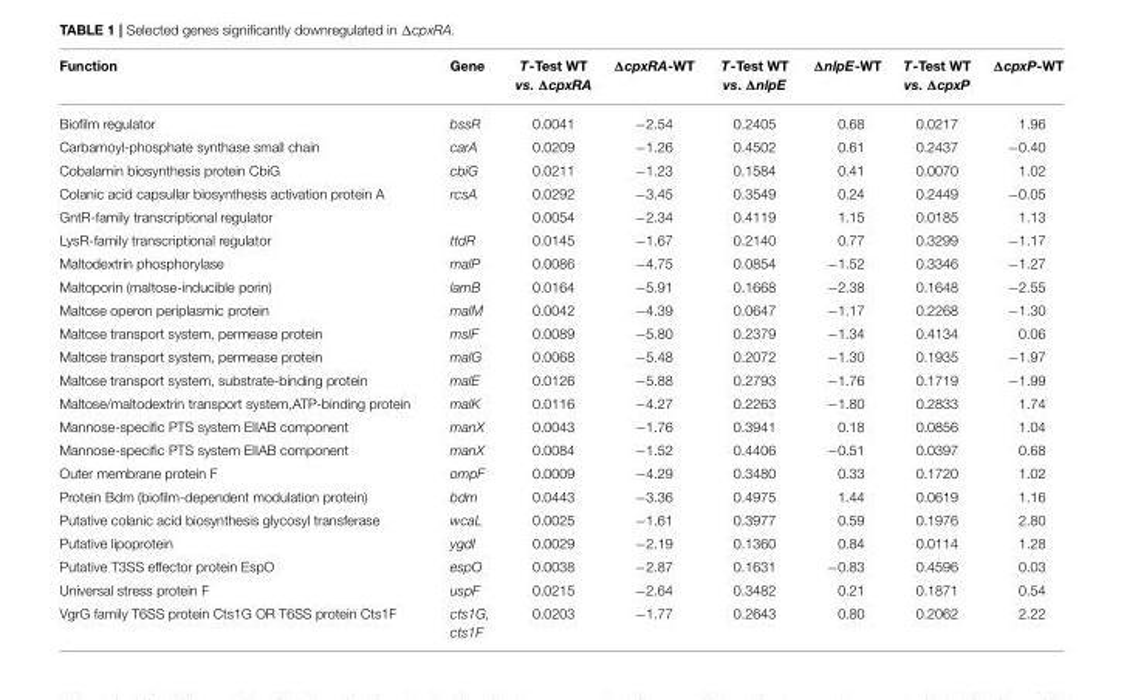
<table><thead><tr><td>Function</td><td>Gene</td><td>T-Test WT vs. ΔcpxRA</td><td>ΔcpxRA-WT</td><td>T-Test WT vs. ΔnlpE</td><td>ΔnlpE-WT</td><td>T-Test WT vs. ΔcpxP</td><td>ΔcpxP-WT</td></tr></thead><tbody><tr><td>Biofilm regulator</td><td>bssR</td><td>0.0041</td><td>−2.54</td><td>0.2405</td><td>0.68</td><td>0.0217</td><td>1.96</td></tr><tr><td>Carbamoyl-phosphate synthase small chain</td><td>carA</td><td>0.0209</td><td>−1.26</td><td>0.4502</td><td>0.61</td><td>0.2437</td><td>−0.40</td></tr><tr><td>Cobalamin biosynthesis protein CbiG</td><td>cbiG</td><td>0.0211</td><td>−1.23</td><td>0.1584</td><td>0.41</td><td>0.0070</td><td>1.02</td></tr><tr><td>Colanic acid capsullar biosynthesis activation protein A</td><td>rcsA</td><td>0.0292</td><td>−3.45</td><td>0.3549</td><td>0.24</td><td>0.2449</td><td>−0.05</td></tr><tr><td>GntR-family transcriptional regulator</td><td></td><td>0.0054</td><td>−2.34</td><td>0.4119</td><td>1.15</td><td>0.0185</td><td>1.13</td></tr><tr><td>LysR-family transcriptional regulator</td><td>ttdR</td><td>0.0145</td><td>−1.67</td><td>0.2140</td><td>0.77</td><td>0.3299</td><td>−1.17</td></tr><tr><td>Maltodextrin phosphorylase</td><td>malP</td><td>0.0086</td><td>−4.75</td><td>0.0854</td><td>−1.52</td><td>0.3346</td><td>−1.27</td></tr><tr><td>Maltoporin (maltose-inducible porin)</td><td>lamB</td><td>0.0164</td><td>−5.91</td><td>0.1668</td><td>−2.38</td><td>0.1648</td><td>−2.55</td></tr><tr><td>Maltose operon periplasmic protein</td><td>malM</td><td>0.0042</td><td>−4.39</td><td>0.0647</td><td>−1.17</td><td>0.2268</td><td>−1.30</td></tr><tr><td>Maltose transport system, permease protein</td><td>mslF</td><td>0.0089</td><td>−5.80</td><td>0.2379</td><td>−1.34</td><td>0.4134</td><td>0.06</td></tr><tr><td>Maltose transport system, permease protein</td><td>malG</td><td>0.0068</td><td>−5.48</td><td>0.2072</td><td>−1.30</td><td>0.1935</td><td>−1.97</td></tr><tr><td>Maltose transport system, substrate-binding protein</td><td>malE</td><td>0.0126</td><td>−5.88</td><td>0.2793</td><td>−1.76</td><td>0.1719</td><td>−1.99</td></tr><tr><td>Maltose/maltodextrin transport system,ATP-binding protein</td><td>malK</td><td>0.0116</td><td>−4.27</td><td>0.2263</td><td>−1.80</td><td>0.2833</td><td>1.74</td></tr><tr><td>Mannose-specific PTS system EIIAB component</td><td>manX</td><td>0.0043</td><td>−1.76</td><td>0.3941</td><td>0.18</td><td>0.0856</td><td>1.04</td></tr><tr><td>Mannose-specific PTS system EIIAB component</td><td>manX</td><td>0.0084</td><td>−1.52</td><td>0.4406</td><td>−0.51</td><td>0.0397</td><td>0.68</td></tr><tr><td>Outer membrane protein F</td><td>ompF</td><td>0.0009</td><td>−4.29</td><td>0.3480</td><td>0.33</td><td>0.1720</td><td>1.02</td></tr><tr><td>Protein Bdm (biofilm-dependent modulation protein)</td><td>bdm</td><td>0.0443</td><td>−3.36</td><td>0.4975</td><td>1.44</td><td>0.0619</td><td>1.16</td></tr><tr><td>Putative colanic acid biosynthesis glycosyl transferase</td><td>wcaL</td><td>0.0025</td><td>−1.61</td><td>0.3977</td><td>0.59</td><td>0.1976</td><td>2.80</td></tr><tr><td>Putative lipoprotein</td><td>ygdI</td><td>0.0029</td><td>−2.19</td><td>0.1360</td><td>0.84</td><td>0.0114</td><td>1.28</td></tr><tr><td>Putative T3SS effector protein EspO</td><td>espO</td><td>0.0038</td><td>−2.87</td><td>0.1631</td><td>−0.83</td><td>0.4596</td><td>0.03</td></tr><tr><td>Universal stress protein F</td><td>uspF</td><td>0.0215</td><td>−2.64</td><td>0.3482</td><td>0.21</td><td>0.1871</td><td>0.54</td></tr><tr><td>VgrG family T6SS protein Cts1G OR T6SS protein Cts1F</td><td>cts1G, cts1F</td><td>0.0203</td><td>−1.77</td><td>0.2643</td><td>0.80</td><td>0.2062</td><td>2.22</td></tr></tbody></table>